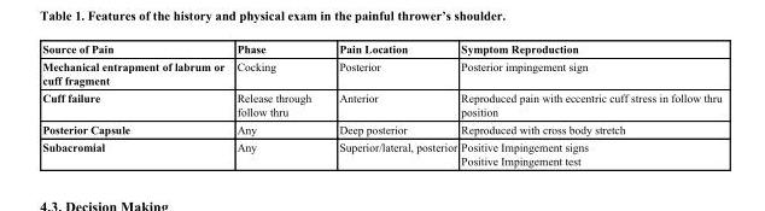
<table><thead><tr><td>Source of Pain</td><td>Phase</td><td>Pain Location</td><td>Symptom Reproduction</td></tr></thead><tbody><tr><td>Mechanical entrapment of labrum or cuff fragment</td><td>Cocking</td><td>Posterior</td><td>Posterior impingement sign</td></tr><tr><td>Cuff failure</td><td>Release through follow thru</td><td>Anterior</td><td>Reproduced pain with eccentric cuff stress in follow thru position</td></tr><tr><td>Posterior Capsule</td><td>Any</td><td>Deep posterior</td><td>Reproduced with cross body stretch</td></tr><tr><td>Subacromial</td><td>Any</td><td>Superior/lateral, posterior</td><td>Positive Impingement signs Positive Impingement test</td></tr></tbody></table>